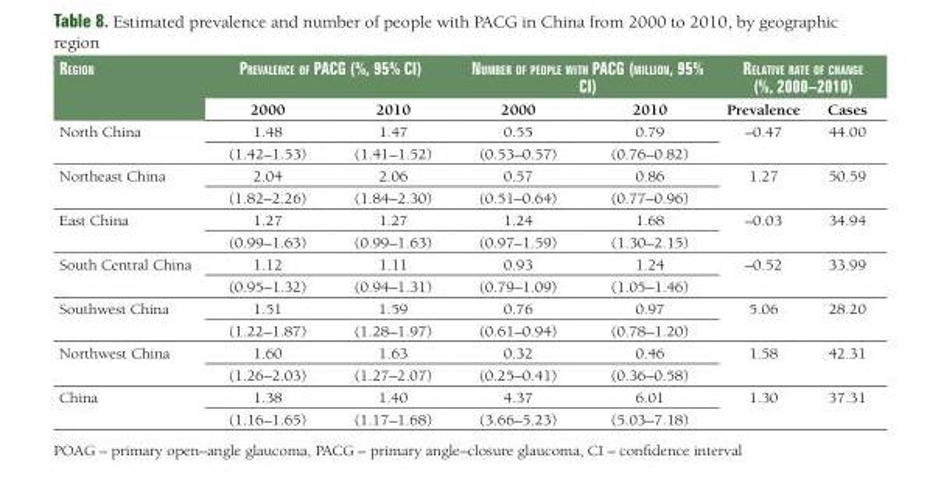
<table><thead><tr><td rowspan="2">Region</td><td colspan="2">pRevalence of pacg (%, 95% ci)</td><td colspan="2">numbeR of people with pacg (million, 95% ci)</td><td colspan="2">Relative Rate of change (%, 2000–2010)</td></tr><tr><td>2000</td><td>2010</td><td>2000</td><td>2010</td><td>Prevalence</td><td>Cases</td></tr></thead><tbody><tr><td rowspan="2">North China</td><td>1.48</td><td>1.47</td><td>0.55</td><td>0.79</td><td rowspan="2">–0.47</td><td rowspan="2">44.00</td></tr><tr><td>(1.42–1.53)</td><td>(1.41–1.52)</td><td>(0.53–0.57)</td><td>(0.76–0.82)</td></tr><tr><td rowspan="2">Northeast China</td><td>2.04</td><td>2.06</td><td>0.57</td><td>0.86</td><td rowspan="2">1.27</td><td rowspan="2">50.59</td></tr><tr><td>(1.82–2.26)</td><td>(1.84–2.30)</td><td>(0.51–0.64)</td><td>(0.77–0.96)</td></tr><tr><td rowspan="2">East China</td><td>1.27</td><td>1.27</td><td>1.24</td><td>1.68</td><td rowspan="2">–0.03</td><td rowspan="2">34.94</td></tr><tr><td>(0.99–1.63)</td><td>(0.99–1.63)</td><td>(0.97–1.59)</td><td>(1.30–2.15)</td></tr><tr><td rowspan="2">South Central China</td><td>1.12</td><td>1.11</td><td>0.93</td><td>1.24</td><td rowspan="2">–0.52</td><td rowspan="2">33.99</td></tr><tr><td>(0.95–1.32)</td><td>(0.94–1.31)</td><td>(0.79–1.09)</td><td>(1.05–1.46)</td></tr><tr><td rowspan="2">Southwest China</td><td>1.51</td><td>1.59</td><td>0.76</td><td>0.97</td><td rowspan="2">5.06</td><td rowspan="2">28.20</td></tr><tr><td>(1.22–1.87)</td><td>(1.28–1.97)</td><td>(0.61–0.94)</td><td>(0.78–1.20)</td></tr><tr><td rowspan="2">Northwest China</td><td>1.60</td><td>1.63</td><td>0.32</td><td>0.46</td><td rowspan="2">1.58</td><td rowspan="2">42.31</td></tr><tr><td>(1.26–2.03)</td><td>(1.27–2.07)</td><td>(0.25–0.41)</td><td>(0.36–0.58)</td></tr><tr><td rowspan="2">China</td><td>1.38</td><td>1.40</td><td>4.37</td><td>6.01</td><td rowspan="2">1.30</td><td rowspan="2">37.31</td></tr><tr><td>(1.16–1.65)</td><td>(1.17–1.68)</td><td>(3.66–5.23)</td><td>(5.03–7.18)</td></tr></tbody></table>